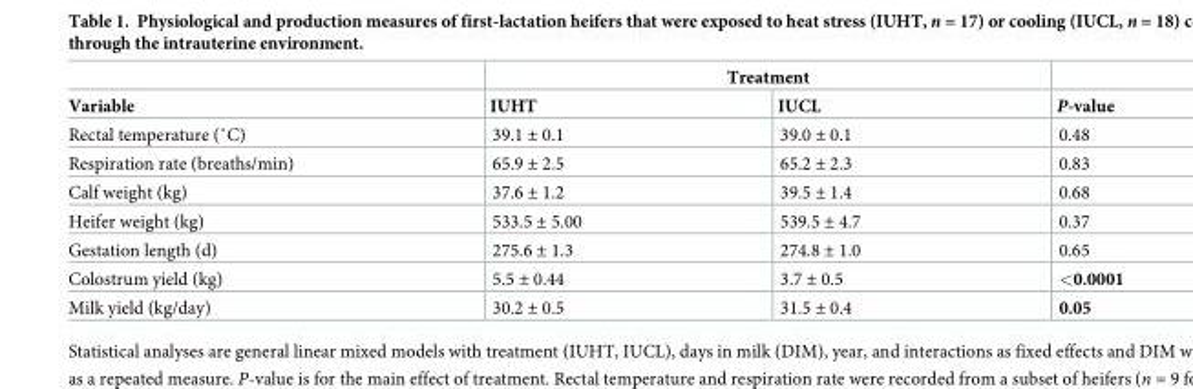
<table><thead><tr><td rowspan="2">Variable</td><td colspan="2">Treatment</td><td rowspan="2">P-value</td></tr><tr><td>IUHT</td><td>IUCL</td></tr></thead><tbody><tr><td>Rectal temperature (˚C)</td><td>39.1 ± 0.1</td><td>39.0 ± 0.1</td><td>0.48</td></tr><tr><td>Respiration rate (breaths/min)</td><td>65.9 ± 2.5</td><td>65.2 ± 2.3</td><td>0.83</td></tr><tr><td>Calf weight (kg)</td><td>37.6 ± 1.2</td><td>39.5 ± 1.4</td><td>0.68</td></tr><tr><td>Heifer weight (kg)</td><td>533.5 ± 5.00</td><td>539.5 ± 4.7</td><td>0.37</td></tr><tr><td>Gestation length (d)</td><td>275.6 ± 1.3</td><td>274.8 ± 1.0</td><td>0.65</td></tr><tr><td>Colostrum yield (kg)</td><td>5.5 ± 0.44</td><td>3.7 ± 0.5</td><td>&lt;0.0001</td></tr><tr><td>Milk yield (kg/day)</td><td>30.2 ± 0.5</td><td>31.5 ± 0.4</td><td>0.05</td></tr></tbody></table>